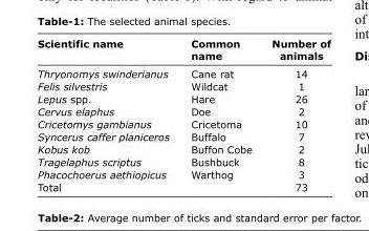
<table><thead><tr><td>Scientific name</td><td>Common name</td><td>Number of animals</td></tr></thead><tbody><tr><td>Thryonomys swinderianus</td><td>Cane rat</td><td>14</td></tr><tr><td>Felis silvestris</td><td>Wildcat</td><td>1</td></tr><tr><td>Lepus spp.</td><td>Hare</td><td>26</td></tr><tr><td>Cervus elaphus</td><td>Doe</td><td>2</td></tr><tr><td>Cricetomys gambianus</td><td>Cricetoma</td><td>10</td></tr><tr><td>Syncerus caffer planiceros</td><td>Buffalo</td><td>7</td></tr><tr><td>Kobus kob</td><td>Buffon Cobe</td><td>2</td></tr><tr><td>Tragelaphus scriptus</td><td>Bushbuck</td><td>8</td></tr><tr><td>Phacochoerus aethiopicus</td><td>Warthog</td><td>3</td></tr><tr><td>Total</td><td></td><td>73</td></tr></tbody></table>